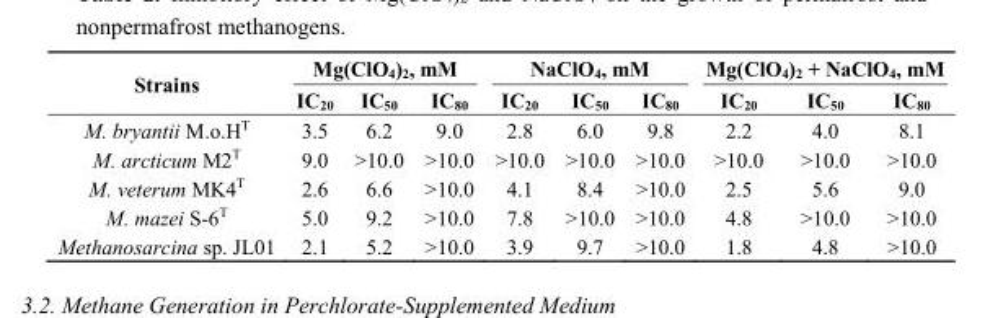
<table><thead><tr><td rowspan="2">Strains</td><td colspan="3">Mg(ClO<sub>4</sub>)<sub>2</sub>, mM</td><td colspan="3">NaClO<sub>4</sub>, mM</td><td colspan="3">Mg(ClO<sub>4</sub>)<sub>2</sub> + NaClO<sub>4</sub>, mM</td></tr><tr><td>IC<sub>20</sub></td><td>IC<sub>50</sub></td><td>IC<sub>80</sub></td><td>IC<sub>20</sub></td><td>IC<sub>50</sub></td><td>IC<sub>80</sub></td><td>IC<sub>20</sub></td><td>IC<sub>50</sub></td><td>IC<sub>80</sub></td></tr></thead><tbody><tr><td>M. bryantii M.o.H<sup>T</sup></td><td>3.5</td><td>6.2</td><td>9.0</td><td>2.8</td><td>6.0</td><td>9.8</td><td>2.2</td><td>4.0</td><td>8.1</td></tr><tr><td>M. arcticum M2<sup>T</sup></td><td>9.0</td><td>&gt;10.0</td><td>&gt;10.0</td><td>&gt;10.0</td><td>&gt;10.0</td><td>&gt;10.0</td><td>&gt;10.0</td><td>&gt;10.0</td><td>&gt;10.0</td></tr><tr><td>M. veterum MK4<sup>T</sup></td><td>2.6</td><td>6.6</td><td>&gt;10.0</td><td>4.1</td><td>8.4</td><td>&gt;10.0</td><td>2.5</td><td>5.6</td><td>9.0</td></tr><tr><td>M. mazei S-6<sup>T</sup></td><td>5.0</td><td>9.2</td><td>&gt;10.0</td><td>7.8</td><td>&gt;10.0</td><td>&gt;10.0</td><td>4.8</td><td>&gt;10.0</td><td>&gt;10.0</td></tr><tr><td>Methanosarcina sp. JL01</td><td>2.1</td><td>5.2</td><td>&gt;10.0</td><td>3.9</td><td>9.7</td><td>&gt;10.0</td><td>1.8</td><td>4.8</td><td>&gt;10.0</td></tr></tbody></table>